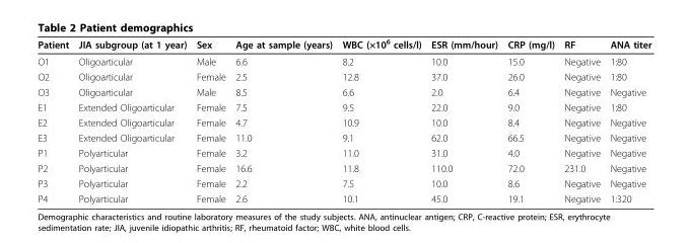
<table><thead><tr><td>Patient</td><td>JIA subgroup (at 1 year)</td><td>Sex</td><td>Age at sample (years)</td><td>WBC (×10<sup>6</sup> cells/l)</td><td>ESR (mm/hour)</td><td>CRP (mg/l)</td><td>RF</td><td>ANA titer</td></tr></thead><tbody><tr><td>O1</td><td>Oligoarticular</td><td>Male</td><td>6.6</td><td>8.2</td><td>10.0</td><td>15.0</td><td>Negative</td><td>1:80</td></tr><tr><td>O2</td><td>Oligoarticular</td><td>Female</td><td>2.5</td><td>12.8</td><td>37.0</td><td>26.0</td><td>Negative</td><td>1:80</td></tr><tr><td>O3</td><td>Oligoarticular</td><td>Male</td><td>8.5</td><td>6.6</td><td>2.0</td><td>6.4</td><td>Negative</td><td>Negative</td></tr><tr><td>E1</td><td>Extended Oligoarticular</td><td>Female</td><td>7.5</td><td>9.5</td><td>22.0</td><td>9.0</td><td>Negative</td><td>1:80</td></tr><tr><td>E2</td><td>Extended Oligoarticular</td><td>Female</td><td>4.7</td><td>10.9</td><td>10.0</td><td>8.4</td><td>Negative</td><td>Negative</td></tr><tr><td>E3</td><td>Extended Oligoarticular</td><td>Female</td><td>11.0</td><td>9.1</td><td>62.0</td><td>66.5</td><td>Negative</td><td>Negative</td></tr><tr><td>P1</td><td>Polyarticular</td><td>Female</td><td>3.2</td><td>11.0</td><td>31.0</td><td>4.0</td><td>Negative</td><td>Negative</td></tr><tr><td>P2</td><td>Polyarticular</td><td>Female</td><td>16.6</td><td>11.8</td><td>110.0</td><td>72.0</td><td>231.0</td><td>Negative</td></tr><tr><td>P3</td><td>Polyarticular</td><td>Female</td><td>2.2</td><td>7.5</td><td>10.0</td><td>8.6</td><td>Negative</td><td>Negative</td></tr><tr><td>P4</td><td>Polyarticular</td><td>Female</td><td>2.6</td><td>10.1</td><td>45.0</td><td>19.1</td><td>Negative</td><td>1:320</td></tr></tbody></table>